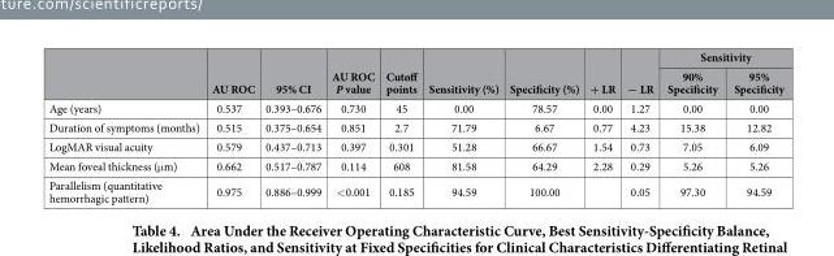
<table><thead><tr><td rowspan="2"></td><td rowspan="2">AU ROC</td><td rowspan="2">95% CI</td><td rowspan="2">AU ROC P value</td><td rowspan="2">Cutoff points</td><td rowspan="2">Sensitivity (%)</td><td rowspan="2">Specificity (%)</td><td rowspan="2">+ LR</td><td rowspan="2">− LR</td><td colspan="2">Sensitivity</td></tr><tr><td>90% Specificity</td><td>95% Specificity</td></tr></thead><tbody><tr><td>Age (years)</td><td>0.537</td><td>0.393–0.676</td><td>0.730</td><td>45</td><td>0.00</td><td>78.57</td><td>0.00</td><td>1.27</td><td>0.00</td><td>0.00</td></tr><tr><td>Duration of symptoms (months)</td><td>0.515</td><td>0.375–0.654</td><td>0.851</td><td>2.7</td><td>71.79</td><td>6.67</td><td>0.77</td><td>4.23</td><td>15.38</td><td>12.82</td></tr><tr><td>LogMAR visual acuity</td><td>0.579</td><td>0.437–0.713</td><td>0.397</td><td>0.301</td><td>51.28</td><td>66.67</td><td>1.54</td><td>0.73</td><td>7.05</td><td>6.09</td></tr><tr><td>Mean foveal thickness (μ m)</td><td>0.662</td><td>0.517–0.787</td><td>0.114</td><td>608</td><td>81.58</td><td>64.29</td><td>2.28</td><td>0.29</td><td>5.26</td><td>5.26</td></tr><tr><td>Parallelism (quantitative hemorrhagic pattern)</td><td>0.975</td><td>0.886–0.999</td><td>&lt; 0.001</td><td>0.185</td><td>94.59</td><td>100.00</td><td></td><td>0.05</td><td>97.30</td><td>94.59</td></tr></tbody></table>